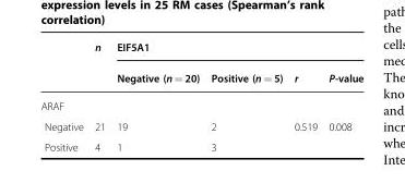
<table><thead><tr><td rowspan="2"></td><td rowspan="2">n</td><td colspan="4">EIF5A1</td></tr><tr><td>Negative (n = 20)</td><td>Positive (n = 5)</td><td>r</td><td>P-value</td></tr></thead><tbody><tr><td colspan="6">ARAF</td></tr><tr><td>Negative</td><td>21</td><td>19</td><td>2</td><td>0.519</td><td>0.008</td></tr><tr><td>Positive</td><td>4</td><td>1</td><td>3</td><td></td><td></td></tr></tbody></table>